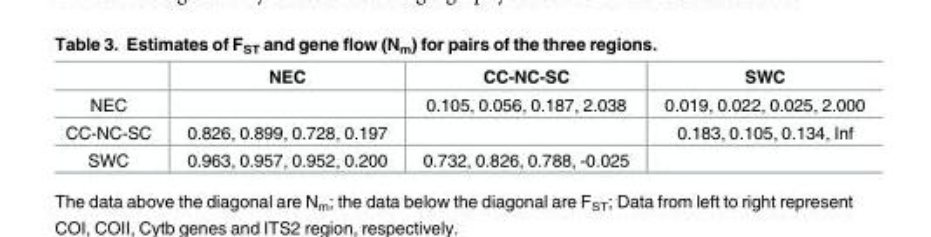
<table><thead><tr><td></td><td>NEC</td><td>CC-NC-SC</td><td>SWC</td></tr></thead><tbody><tr><td>NEC</td><td></td><td>0.105, 0.056, 0.187, 2.038</td><td>0.019, 0.022, 0.025, 2.000</td></tr><tr><td>CC-NC-SC</td><td>0.826, 0.899, 0.728, 0.197</td><td></td><td>0.183, 0.105, 0.134, Inf</td></tr><tr><td>SWC</td><td>0.963, 0.957, 0.952, 0.200</td><td>0.732, 0.826, 0.788, -0.025</td><td></td></tr></tbody></table>